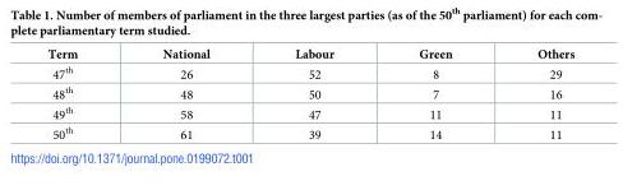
<table><thead><tr><td>Term</td><td>National</td><td>Labour</td><td>Green</td><td>Others</td></tr></thead><tbody><tr><td>47<sup>th</sup></td><td>26</td><td>52</td><td>8</td><td>29</td></tr><tr><td>48<sup>th</sup></td><td>48</td><td>50</td><td>7</td><td>16</td></tr><tr><td>49<sup>th</sup></td><td>58</td><td>47</td><td>11</td><td>11</td></tr><tr><td>50<sup>th</sup></td><td>61</td><td>39</td><td>14</td><td>11</td></tr></tbody></table>